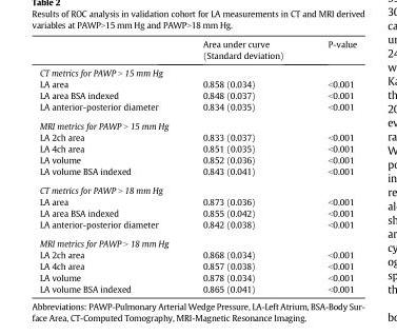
<table><thead><tr><td></td><td>Area under curve (Standard deviation)</td><td>P-value</td></tr></thead><tbody><tr><td colspan="3">CT metrics for PAWP &gt; 15 mm Hg</td></tr><tr><td>LA area</td><td>0.858 (0.034)</td><td>&lt;0.001</td></tr><tr><td>LA area BSA indexed</td><td>0.848 (0.037)</td><td>&lt;0.001</td></tr><tr><td>LA anterior-posterior diameter</td><td>0.834 (0.035)</td><td>&lt;0.001</td></tr><tr><td colspan="3">MRI metrics for PAWP &gt; 15 mm Hg</td></tr><tr><td>LA 2ch area</td><td>0.833 (0.037)</td><td>&lt;0.001</td></tr><tr><td>LA 4ch area</td><td>0.851 (0.035)</td><td>&lt;0.001</td></tr><tr><td>LA volume</td><td>0.852 (0.036)</td><td>&lt;0.001</td></tr><tr><td>LA volume BSA indexed</td><td>0.843 (0.041)</td><td>&lt;0.001</td></tr><tr><td colspan="3">CT metrics for PAWP &gt; 18 mm Hg</td></tr><tr><td>LA area</td><td>0.873 (0.036)</td><td>&lt;0.001</td></tr><tr><td>LA area BSA indexed</td><td>0.855 (0.042)</td><td>&lt;0.001</td></tr><tr><td>LA anterior-posterior diameter</td><td>0.842 (0.038)</td><td>&lt;0.001</td></tr><tr><td colspan="3">MRI metrics for PAWP &gt; 18 mm Hg</td></tr><tr><td>LA 2ch area</td><td>0.868 (0.034)</td><td>&lt;0.001</td></tr><tr><td>LA 4ch area</td><td>0.857 (0.038)</td><td>&lt;0.001</td></tr><tr><td>LA volume</td><td>0.878 (0.034)</td><td>&lt;0.001</td></tr><tr><td>LA volume BSA indexed</td><td>0.865 (0.041)</td><td>&lt;0.001</td></tr></tbody></table>